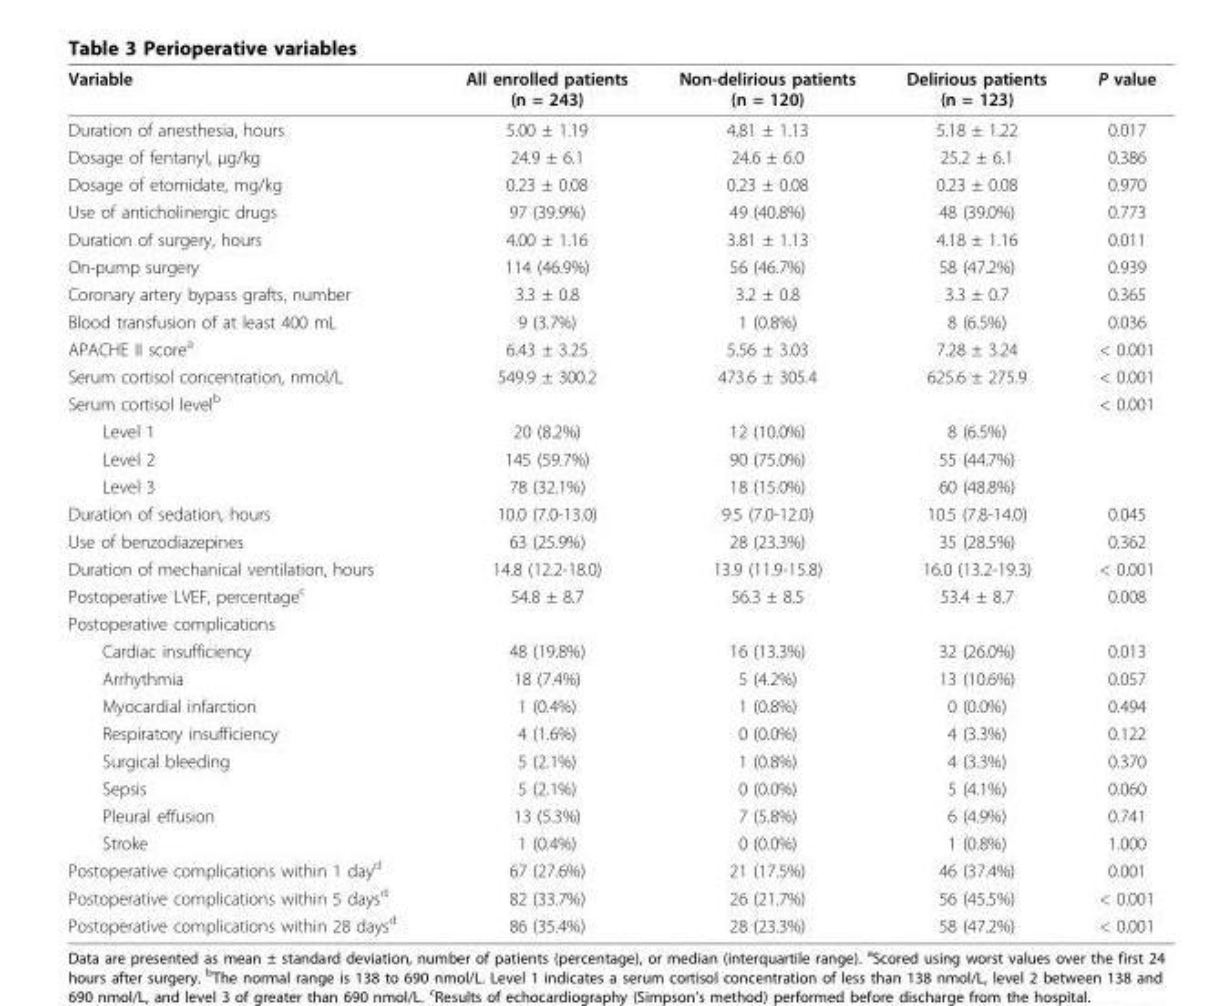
<table><thead><tr><td>Variable</td><td>All enrolled patients (n = 243)</td><td>Non-delirious patients (n = 120)</td><td>Delirious patients (n = 123)</td><td>P value</td></tr></thead><tbody><tr><td>Duration of anesthesia, hours</td><td>5.00 ± 1.19</td><td>4.81 ± 1.13</td><td>5.18 ± 1.22</td><td>0.017</td></tr><tr><td>Dosage of fentanyl, μg/kg</td><td>24.9 ± 6.1</td><td>24.6 ± 6.0</td><td>25.2 ± 6.1</td><td>0.386</td></tr><tr><td>Dosage of etomidate, mg/kg</td><td>0.23 ± 0.08</td><td>0.23 ± 0.08</td><td>0.23 ± 0.08</td><td>0.970</td></tr><tr><td>Use of anticholinergic drugs</td><td>97 (39.9%)</td><td>49 (40.8%)</td><td>48 (39.0%)</td><td>0.773</td></tr><tr><td>Duration of surgery, hours</td><td>4.00 ± 1.16</td><td>3.81 ± 1.13</td><td>4.18 ± 1.16</td><td>0.011</td></tr><tr><td>On-pump surgery</td><td>114 (46.9%)</td><td>56 (46.7%)</td><td>58 (47.2%)</td><td>0.939</td></tr><tr><td>Coronary artery bypass grafts, number</td><td>3.3 ± 0.8</td><td>3.2 ± 0.8</td><td>3.3 ± 0.7</td><td>0.365</td></tr><tr><td>Blood transfusion of at least 400 mL</td><td>9 (3.7%)</td><td>1 (0.8%)</td><td>8 (6.5%)</td><td>0.036</td></tr><tr><td>APACHE II score<sup>a</sup></td><td>6.43 ± 3.25</td><td>5.56 ± 3.03</td><td>7.28 ± 3.24</td><td>&lt; 0.001</td></tr><tr><td>Serum cortisol concentration, nmol/L</td><td>549.9 ± 300.2</td><td>473.6 ± 305.4</td><td>625.6 ± 275.9</td><td>&lt; 0.001</td></tr><tr><td>Serum cortisol level<sup>b</sup></td><td></td><td></td><td></td><td>&lt; 0.001</td></tr><tr><td>Level 1</td><td>20 (8.2%)</td><td>12 (10.0%)</td><td>8 (6.5%)</td><td></td></tr><tr><td>Level 2</td><td>145 (59.7%)</td><td>90 (75.0%)</td><td>55 (44.7%)</td><td></td></tr><tr><td>Level 3</td><td>78 (32.1%)</td><td>18 (15.0%)</td><td>60 (48.8%)</td><td></td></tr><tr><td>Duration of sedation, hours</td><td>10.0 (7.0-13.0)</td><td>9.5 (7.0-12.0)</td><td>10.5 (7.8-14.0)</td><td>0.045</td></tr><tr><td>Use of benzodiazepines</td><td>63 (25.9%)</td><td>28 (23.3%)</td><td>35 (28.5%)</td><td>0.362</td></tr><tr><td>Duration of mechanical ventilation, hours</td><td>14.8 (12.2-18.0)</td><td>13.9 (11.9-15.8)</td><td>16.0 (13.2-19.3)</td><td>&lt; 0.001</td></tr><tr><td>Postoperative LVEF, percentage<sup>c</sup></td><td>54.8 ± 8.7</td><td>56.3 ± 8.5</td><td>53.4 ± 8.7</td><td>0.008</td></tr><tr><td colspan="5">Postoperative complications</td></tr><tr><td>Cardiac insufficiency</td><td>48 (19.8%)</td><td>16 (13.3%)</td><td>32 (26.0%)</td><td>0.013</td></tr><tr><td>Arrhythmia</td><td>18 (7.4%)</td><td>5 (4.2%)</td><td>13 (10.6%)</td><td>0.057</td></tr><tr><td>Myocardial infarction</td><td>1 (0.4%)</td><td>1 (0.8%)</td><td>0 (0.0%)</td><td>0.494</td></tr><tr><td>Respiratory insufficiency</td><td>4 (1.6%)</td><td>0 (0.0%)</td><td>4 (3.3%)</td><td>0.122</td></tr><tr><td>Surgical bleeding</td><td>5 (2.1%)</td><td>1 (0.8%)</td><td>4 (3.3%)</td><td>0.370</td></tr><tr><td>Sepsis</td><td>5 (2.1%)</td><td>0 (0.0%)</td><td>5 (4.1%)</td><td>0.060</td></tr><tr><td>Pleural effusion</td><td>13 (5.3%)</td><td>7 (5.8%)</td><td>6 (4.9%)</td><td>0.741</td></tr><tr><td>Stroke</td><td>1 (0.4%)</td><td>0 (0.0%)</td><td>1 (0.8%)</td><td>1.000</td></tr><tr><td>Postoperative complications within 1 day<sup>d</sup></td><td>67 (27.6%)</td><td>21 (17.5%)</td><td>46 (37.4%)</td><td>0.001</td></tr><tr><td>Postoperative complications within 5 days<sup>d</sup></td><td>82 (33.7%)</td><td>26 (21.7%)</td><td>56 (45.5%)</td><td>&lt; 0.001</td></tr><tr><td>Postoperative complications within 28 days<sup>d</sup></td><td>86 (35.4%)</td><td>28 (23.3%)</td><td>58 (47.2%)</td><td>&lt; 0.001</td></tr></tbody></table>